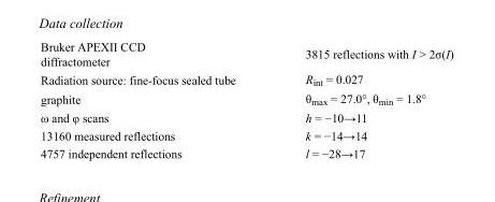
<table><tbody><tr><td>Bruker APEXII CCD diffractometer</td><td>3815 reflections with I &gt; 2σ(I)</td></tr><tr><td>Radiation source: fine-focus sealed tube</td><td>R<sub>int</sub> = 0.027</td></tr><tr><td>graphite</td><td>θ<sub>max</sub> = 27.0°, θ<sub>min</sub> = 1.8°</td></tr><tr><td>ω and φ scans</td><td>h = −10→11</td></tr><tr><td>13160 measured reflections</td><td>k = −14→14</td></tr><tr><td>4757 independent reflections</td><td>l = −28→17</td></tr></tbody></table>